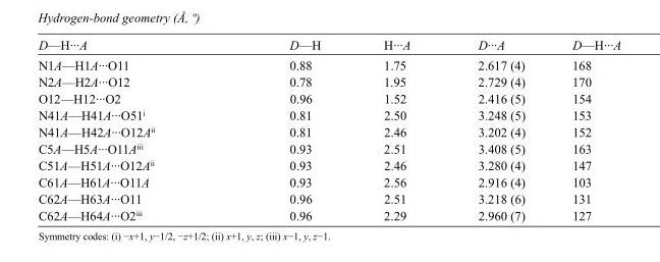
<table><tbody><tr><td>D—H···A</td><td>D—H</td><td>H···A</td><td>D···A</td><td>D—H···A</td></tr><tr><td>N1A—H1A···O11</td><td>0.88</td><td>1.75</td><td>2.617 (4)</td><td>168</td></tr><tr><td>N2A—H2A···O12</td><td>0.78</td><td>1.95</td><td>2.729 (4)</td><td>170</td></tr><tr><td>O12—H12···O2</td><td>0.96</td><td>1.52</td><td>2.416 (5)</td><td>154</td></tr><tr><td>N41A—H41A···O51<sup>i</sup></td><td>0.81</td><td>2.50</td><td>3.248 (5)</td><td>153</td></tr><tr><td>N41A—H42A···O12A<sup>ii</sup></td><td>0.81</td><td>2.46</td><td>3.202 (4)</td><td>152</td></tr><tr><td>C5A—H5A···O11A<sup>iii</sup></td><td>0.93</td><td>2.51</td><td>3.408 (5)</td><td>163</td></tr><tr><td>C51A—H51A···O12A<sup>ii</sup></td><td>0.93</td><td>2.46</td><td>3.280 (4)</td><td>147</td></tr><tr><td>C61A—H61A···O11A</td><td>0.93</td><td>2.56</td><td>2.916 (4)</td><td>103</td></tr><tr><td>C62A—H63A···O11</td><td>0.96</td><td>2.51</td><td>3.218 (6)</td><td>131</td></tr><tr><td>C62A—H64A···O2<sup>iii</sup></td><td>0.96</td><td>2.29</td><td>2.960 (7)</td><td>127</td></tr></tbody></table>